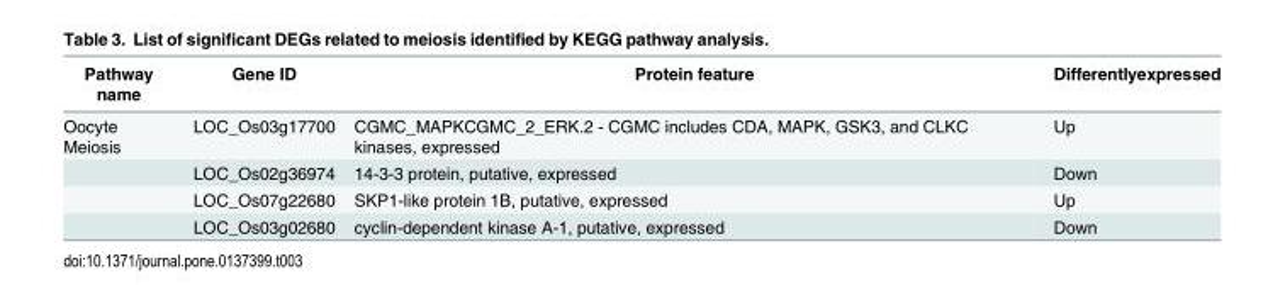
<table><thead><tr><td>Pathway name</td><td>Gene ID</td><td>Protein feature</td><td>Differentlyexpressed</td></tr></thead><tbody><tr><td rowspan="4">Oocyte Meiosis</td><td>LOC_Os03g17700</td><td>CGMC_MAPKCGMC_2_ERK.2 - CGMC includes CDA, MAPK, GSK3, and CLKC kinases, expressed</td><td>Up</td></tr><tr><td>LOC_Os02g36974</td><td>14-3-3 protein, putative, expressed</td><td>Down</td></tr><tr><td>LOC_Os07g22680</td><td>SKP1-like protein 1B, putative, expressed</td><td>Up</td></tr><tr><td>LOC_Os03g02680</td><td>cyclin-dependent kinase A-1, putative, expressed</td><td>Down</td></tr></tbody></table>